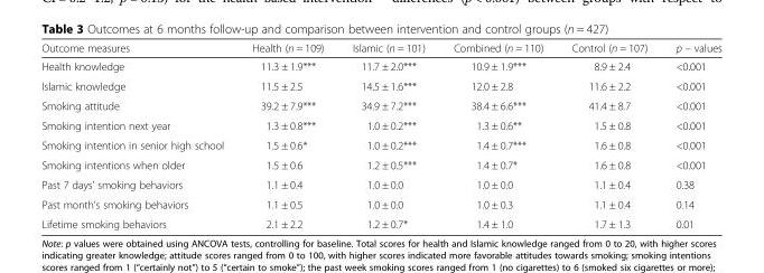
<table><thead><tr><td>Outcome measures</td><td>Health (n = 109)</td><td>Islamic (n = 101)</td><td>Combined (n = 110)</td><td>Control (n = 107)</td><td>p – values</td></tr></thead><tbody><tr><td>Health knowledge</td><td>11.3 ± 1.9***</td><td>11.7 ± 2.0***</td><td>10.9 ± 1.9***</td><td>8.9 ± 2.4</td><td>&lt;0.001</td></tr><tr><td>Islamic knowledge</td><td>11.5 ± 2.5</td><td>14.5 ± 1.6***</td><td>12.0 ± 2.8</td><td>11.6 ± 2.2</td><td>&lt;0.001</td></tr><tr><td>Smoking attitude</td><td>39.2 ± 7.9***</td><td>34.9 ± 7.2***</td><td>38.4 ± 6.6***</td><td>41.4 ± 8.7</td><td>&lt;0.001</td></tr><tr><td>Smoking intention next year</td><td>1.3 ± 0.8***</td><td>1.0 ± 0.2***</td><td>1.3 ± 0.6**</td><td>1.5 ± 0.8</td><td>&lt;0.001</td></tr><tr><td>Smoking intention in senior high school</td><td>1.5 ± 0.6*</td><td>1.0 ± 0.2***</td><td>1.4 ± 0.7***</td><td>1.6 ± 0.8</td><td>&lt;0.001</td></tr><tr><td>Smoking intentions when older</td><td>1.5 ± 0.6</td><td>1.2 ± 0.5***</td><td>1.4 ± 0.7*</td><td>1.6 ± 0.8</td><td>&lt;0.001</td></tr><tr><td>Past 7 days’ smoking behaviors</td><td>1.1 ± 0.4</td><td>1.0 ± 0.0</td><td>1.0 ± 0.0</td><td>1.1 ± 0.4</td><td>0.38</td></tr><tr><td>Past month’s smoking behaviors</td><td>1.1 ± 0.5</td><td>1.0 ± 0.0</td><td>1.0 ± 0.3</td><td>1.1 ± 0.4</td><td>0.14</td></tr><tr><td>Lifetime smoking behaviors</td><td>2.1 ± 2.2</td><td>1.2 ± 0.7*</td><td>1.4 ± 1.0</td><td>1.7 ± 1.3</td><td>0.01</td></tr></tbody></table>